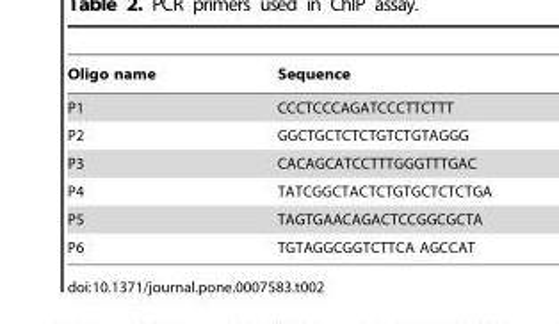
<table><thead><tr><td>Oligo name</td><td>Sequence</td></tr></thead><tbody><tr><td>P1</td><td>CCCTCCCAGATCCCTTCTTT</td></tr><tr><td>P2</td><td>GGCTGCTCTCTGTCTGTAGGG</td></tr><tr><td>P3</td><td>CACAGCATCCTTTGGGTTTGAC</td></tr><tr><td>P4</td><td>TATCGGCTACTCTGTGCTCTCTGA</td></tr><tr><td>P5</td><td>TAGTGAACAGACTCCGGCGCTA</td></tr><tr><td>P6</td><td>TGTAGGCGGTCTTCA AGCCAT</td></tr></tbody></table>